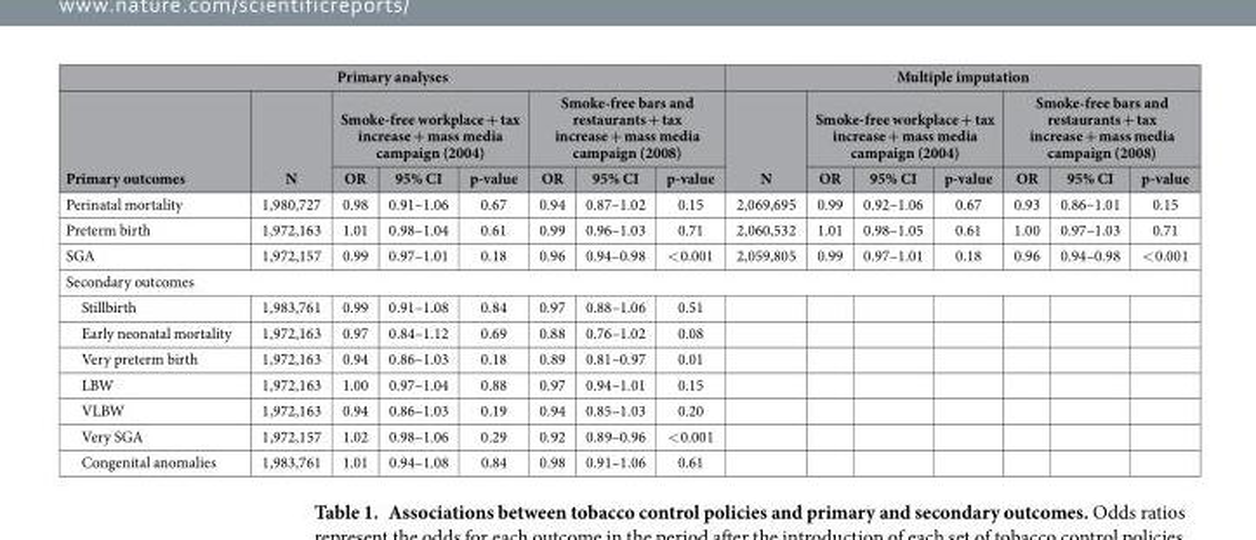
<table><thead><tr><td colspan="8">Primary analyses</td><td colspan="7">Multiple imputation</td></tr><tr><td rowspan="2">Primary outcomes</td><td rowspan="2">N</td><td colspan="3">Smoke-free workplace + tax increase + mass media campaign (2004)</td><td colspan="3">Smoke-free bars and restaurants + tax increase + mass media campaign (2008)</td><td rowspan="2">N</td><td colspan="3">Smoke-free workplace + tax increase + mass media campaign (2004)</td><td colspan="3">Smoke-free bars and restaurants + tax increase + mass media campaign (2008)</td></tr><tr><td>OR</td><td>95% CI</td><td>p-value</td><td>OR</td><td>95% CI</td><td>p-value</td><td>OR</td><td>95% CI</td><td>p-value</td><td>OR</td><td>95% CI</td><td>p-value</td></tr></thead><tbody><tr><td>Perinatal mortality</td><td>1,980,727</td><td>0.98</td><td>0.91–1.06</td><td>0.67</td><td>0.94</td><td>0.87–1.02</td><td>0.15</td><td>2,069,695</td><td>0.99</td><td>0.92–1.06</td><td>0.67</td><td>0.93</td><td>0.86–1.01</td><td>0.15</td></tr><tr><td>Preterm birth</td><td>1,972,163</td><td>1.01</td><td>0.98–1.04</td><td>0.61</td><td>0.99</td><td>0.96–1.03</td><td>0.71</td><td>2,060,532</td><td>1.01</td><td>0.98–1.05</td><td>0.61</td><td>1.00</td><td>0.97–1.03</td><td>0.71</td></tr><tr><td>SGA</td><td>1,972,157</td><td>0.99</td><td>0.97–1.01</td><td>0.18</td><td>0.96</td><td>0.94–0.98</td><td>&lt; 0.001</td><td>2,059,805</td><td>0.99</td><td>0.97–1.01</td><td>0.18</td><td>0.96</td><td>0.94–0.98</td><td>&lt; 0.001</td></tr><tr><td colspan="15">Secondary outcomes</td></tr><tr><td>Stillbirth</td><td>1,983,761</td><td>0.99</td><td>0.91–1.08</td><td>0.84</td><td>0.97</td><td>0.88–1.06</td><td>0.51</td><td></td><td></td><td></td><td></td><td></td><td></td><td></td></tr><tr><td>Early neonatal mortality</td><td>1,972,163</td><td>0.97</td><td>0.84–1.12</td><td>0.69</td><td>0.88</td><td>0.76–1.02</td><td>0.08</td><td></td><td></td><td></td><td></td><td></td><td></td><td></td></tr><tr><td>Very preterm birth</td><td>1,972,163</td><td>0.94</td><td>0.86–1.03</td><td>0.18</td><td>0.89</td><td>0.81–0.97</td><td>0.01</td><td></td><td></td><td></td><td></td><td></td><td></td><td></td></tr><tr><td>LBW</td><td>1,972,163</td><td>1.00</td><td>0.97–1.04</td><td>0.88</td><td>0.97</td><td>0.94–1.01</td><td>0.15</td><td></td><td></td><td></td><td></td><td></td><td></td><td></td></tr><tr><td>VLBW</td><td>1,972,163</td><td>0.94</td><td>0.86–1.03</td><td>0.19</td><td>0.94</td><td>0.85–1.03</td><td>0.20</td><td></td><td></td><td></td><td></td><td></td><td></td><td></td></tr><tr><td>Very SGA</td><td>1,972,157</td><td>1.02</td><td>0.98–1.06</td><td>0.29</td><td>0.92</td><td>0.89–0.96</td><td>&lt; 0.001</td><td></td><td></td><td></td><td></td><td></td><td></td><td></td></tr><tr><td>Congenital anomalies</td><td>1,983,761</td><td>1.01</td><td>0.94–1.08</td><td>0.84</td><td>0.98</td><td>0.91–1.06</td><td>0.61</td><td></td><td></td><td></td><td></td><td></td><td></td><td></td></tr></tbody></table>